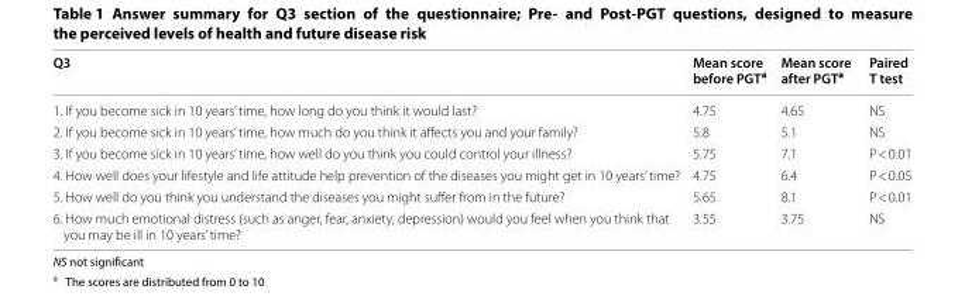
<table><thead><tr><td>Q3</td><td>Mean score before PGT<sup>a</sup></td><td>Mean score after PGT<sup>a</sup></td><td>Paired T test</td></tr></thead><tbody><tr><td>1. If you become sick in 10 years’ time, how long do you think it would last?</td><td>4.75</td><td>4.65</td><td>NS</td></tr><tr><td>2. If you become sick in 10 years’ time, how much do you think it affects you and your family?</td><td>5.8</td><td>5.1</td><td>NS</td></tr><tr><td>3. If you become sick in 10 years’ time, how well do you think you could control your illness?</td><td>5.75</td><td>7.1</td><td>P &lt; 0.01</td></tr><tr><td>4. How well does your lifestyle and life attitude help prevention of the diseases you might get in 10 years’ time?</td><td>4.75</td><td>6.4</td><td>P &lt; 0.05</td></tr><tr><td>5. How well do you think you understand the diseases you might suffer from in the future?</td><td>5.65</td><td>8.1</td><td>P &lt; 0.01</td></tr><tr><td>6. How much emotional distress (such as anger, fear, anxiety, depression) would you feel when you think that you may be ill in 10 years’ time?</td><td>3.55</td><td>3.75</td><td>NS</td></tr></tbody></table>